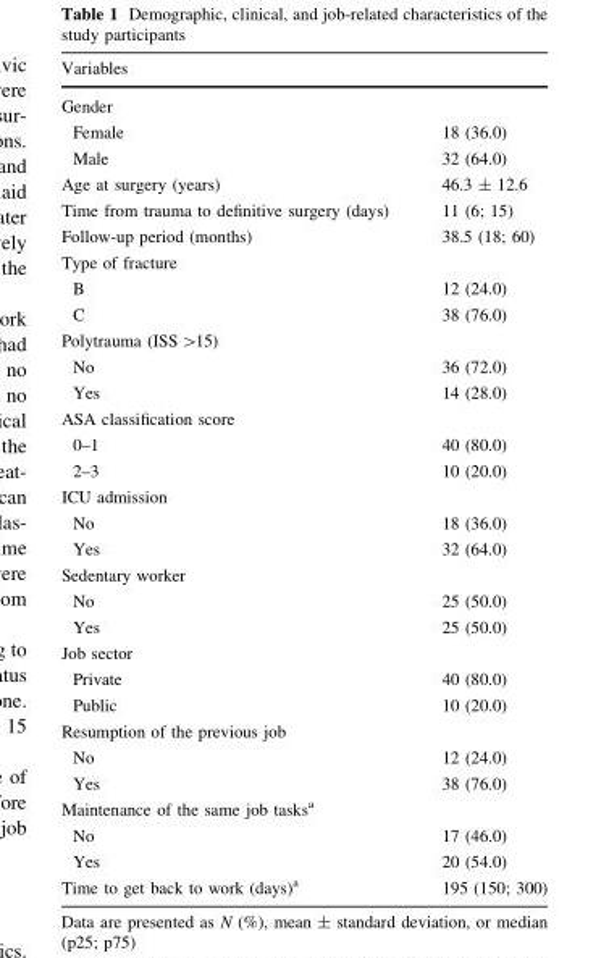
<table><thead><tr><td rowspan="2" colspan="2">Variables Gender</td></tr><tr></tr><tr><td>Female</td><td>18 (36.0)</td></tr></thead><tbody><tr><td>Male</td><td>32 (64.0)</td></tr><tr><td>Age at surgery (years)</td><td>46.3 ± 12.6</td></tr><tr><td>Time from trauma to definitive surgery (days)</td><td>11 (6; 15)</td></tr><tr><td>Follow-up period (months)</td><td>38.5 (18; 60)</td></tr><tr><td colspan="2">Type of fracture</td></tr><tr><td>B</td><td>12 (24.0)</td></tr><tr><td>C</td><td>38 (76.0)</td></tr><tr><td colspan="2">Polytrauma (ISS &gt;15)</td></tr><tr><td>No</td><td>36 (72.0)</td></tr><tr><td>Yes</td><td>14 (28.0)</td></tr><tr><td colspan="2">ASA classification score</td></tr><tr><td>0–1</td><td>40 (80.0)</td></tr><tr><td>2–3</td><td>10 (20.0)</td></tr><tr><td colspan="2">ICU admission</td></tr><tr><td>No</td><td>18 (36.0)</td></tr><tr><td>Yes</td><td>32 (64.0)</td></tr><tr><td colspan="2">Sedentary worker</td></tr><tr><td>No</td><td>25 (50.0)</td></tr><tr><td>Yes</td><td>25 (50.0)</td></tr><tr><td colspan="2">Job sector</td></tr><tr><td>Private</td><td>40 (80.0)</td></tr><tr><td>Public</td><td>10 (20.0)</td></tr><tr><td colspan="2">Resumption of the previous job</td></tr><tr><td>No</td><td>12 (24.0)</td></tr><tr><td>Yes</td><td>38 (76.0)</td></tr><tr><td colspan="2">Maintenance of the same job tasks<sup>a</sup></td></tr><tr><td>No</td><td>17 (46.0)</td></tr><tr><td>Yes</td><td>20 (54.0)</td></tr><tr><td>Time to get back to work (days)<sup>a</sup></td><td>195 (150; 300)</td></tr></tbody></table>